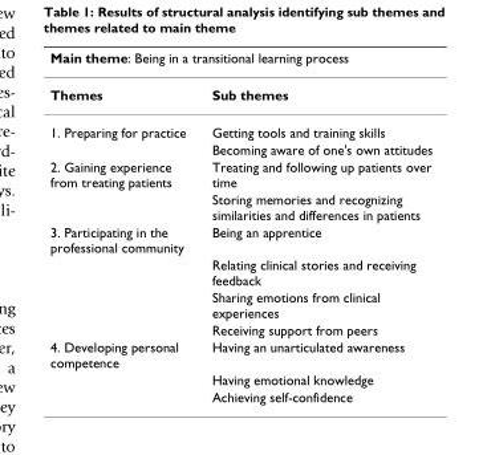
<table><thead><tr><td colspan="2">Main theme: Being in a transitional learning process</td></tr><tr><td>Themes</td><td>Sub themes</td></tr></thead><tbody><tr><td rowspan="2">1. Preparing for practice</td><td>Getting tools and training skills</td></tr><tr><td>Becoming aware of one&#x27;s own attitudes</td></tr><tr><td rowspan="2">2. Gaining experience from treating patients</td><td>Treating and following up patients over time</td></tr><tr><td>Storing memories and recognizing similarities and differences in patients</td></tr><tr><td rowspan="4">3. Participating in the professional community</td><td>Being an apprentice</td></tr><tr><td>Relating clinical stories and receiving feedback</td></tr><tr><td>Sharing emotions from clinical experiences</td></tr><tr><td>Receiving support from peers</td></tr><tr><td rowspan="3">4. Developing personal competence</td><td>Having an unarticulated awareness</td></tr><tr><td>Having emotional knowledge</td></tr><tr><td>Achieving self-confidence</td></tr></tbody></table>